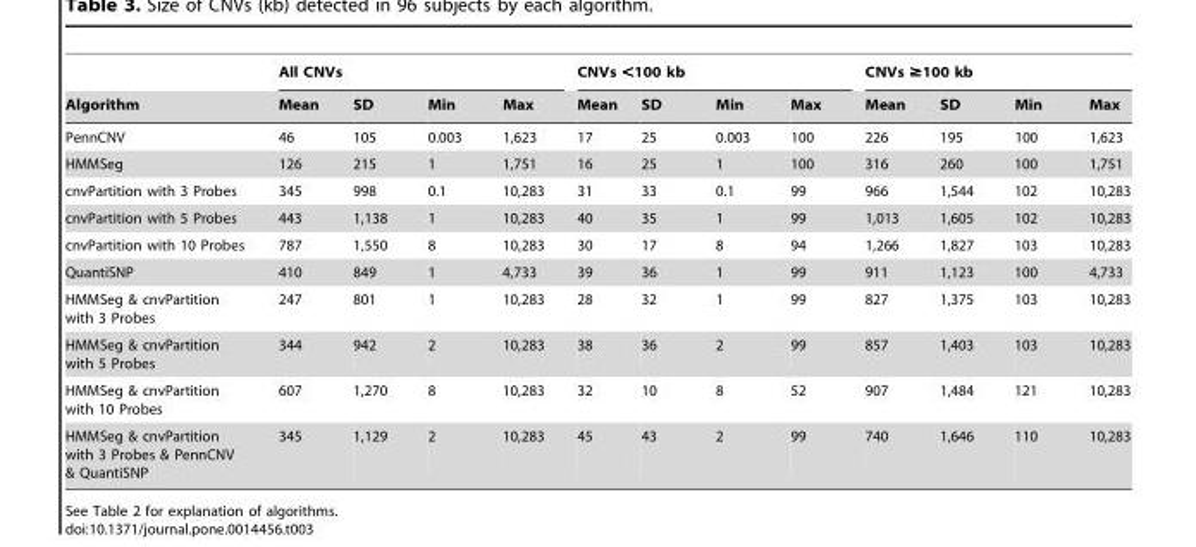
<table><thead><tr><td rowspan="2">Algorithm</td><td colspan="4">All CNVs</td><td colspan="4">CNVs &lt;100 kb</td><td colspan="4">CNVs ≥100 kb</td></tr><tr><td>Mean</td><td>SD</td><td>Min</td><td>Max</td><td>Mean</td><td>SD</td><td>Min</td><td>Max</td><td>Mean</td><td>SD</td><td>Min</td><td>Max</td></tr></thead><tbody><tr><td>PennCNV</td><td>46</td><td>105</td><td>0.003</td><td>1,623</td><td>17</td><td>25</td><td>0.003</td><td>100</td><td>226</td><td>195</td><td>100</td><td>1,623</td></tr><tr><td>HMMSeg</td><td>126</td><td>215</td><td>1</td><td>1,751</td><td>16</td><td>25</td><td>1</td><td>100</td><td>316</td><td>260</td><td>100</td><td>1,751</td></tr><tr><td>cnvPartition with 3 Probes</td><td>345</td><td>998</td><td>0.1</td><td>10,283</td><td>31</td><td>33</td><td>0.1</td><td>99</td><td>966</td><td>1,544</td><td>102</td><td>10,283</td></tr><tr><td>cnvPartition with 5 Probes</td><td>443</td><td>1,138</td><td>1</td><td>10,283</td><td>40</td><td>35</td><td>1</td><td>99</td><td>1,013</td><td>1,605</td><td>102</td><td>10,283</td></tr><tr><td>cnvPartition with 10 Probes</td><td>787</td><td>1,550</td><td>8</td><td>10,283</td><td>30</td><td>17</td><td>8</td><td>94</td><td>1,266</td><td>1,827</td><td>103</td><td>10,283</td></tr><tr><td>QuantiSNP</td><td>410</td><td>849</td><td>1</td><td>4,733</td><td>39</td><td>36</td><td>1</td><td>99</td><td>911</td><td>1,123</td><td>100</td><td>4,733</td></tr><tr><td>HMMSeg &amp; cnvPartition with 3 Probes</td><td>247</td><td>801</td><td>1</td><td>10,283</td><td>28</td><td>32</td><td>1</td><td>99</td><td>827</td><td>1,375</td><td>103</td><td>10,283</td></tr><tr><td>HMMSeg &amp; cnvPartition with 5 Probes</td><td>344</td><td>942</td><td>2</td><td>10,283</td><td>38</td><td>36</td><td>2</td><td>99</td><td>857</td><td>1,403</td><td>103</td><td>10,283</td></tr><tr><td>HMMSeg &amp; cnvPartition with 10 Probes</td><td>607</td><td>1,270</td><td>8</td><td>10,283</td><td>32</td><td>10</td><td>8</td><td>52</td><td>907</td><td>1,484</td><td>121</td><td>10,283</td></tr><tr><td>HMMSeg &amp; cnvPartition with 3 Probes &amp; PennCNV &amp; QuantiSNP</td><td>345</td><td>1,129</td><td>2</td><td>10,283</td><td>45</td><td>43</td><td>2</td><td>99</td><td>740</td><td>1,646</td><td>110</td><td>10,283</td></tr></tbody></table>